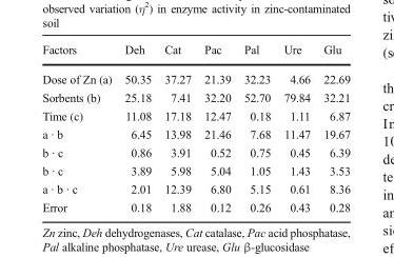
<table><thead><tr><td>Factors</td><td>Deh</td><td>Cat</td><td>Pac</td><td>Pal</td><td>Ure</td><td>Glu</td></tr></thead><tbody><tr><td>Dose of Zn (a)</td><td>50.35</td><td>37.27</td><td>21.39</td><td>32.23</td><td>4.66</td><td>22.69</td></tr><tr><td>Sorbents (b)</td><td>25.18</td><td>7.41</td><td>32.20</td><td>52.70</td><td>79.84</td><td>32.21</td></tr><tr><td>Time (c)</td><td>11.08</td><td>17.18</td><td>12.47</td><td>0.18</td><td>1.11</td><td>6.87</td></tr><tr><td>a · b</td><td>6.45</td><td>13.98</td><td>21.46</td><td>7.68</td><td>11.47</td><td>19.67</td></tr><tr><td>b · c</td><td>0.86</td><td>3.91</td><td>0.52</td><td>0.75</td><td>0.45</td><td>6.39</td></tr><tr><td>b · c</td><td>3.89</td><td>5.98</td><td>5.04</td><td>1.05</td><td>1.43</td><td>3.53</td></tr><tr><td>a · b · c</td><td>2.01</td><td>12.39</td><td>6.80</td><td>5.15</td><td>0.61</td><td>8.36</td></tr><tr><td>Error</td><td>0.18</td><td>1.88</td><td>0.12</td><td>0.26</td><td>0.43</td><td>0.28</td></tr></tbody></table>